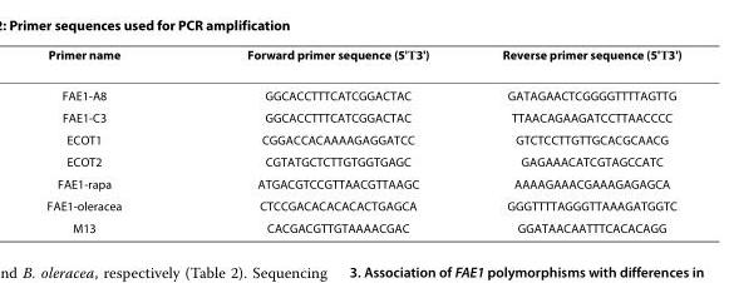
<table><thead><tr><td>Primer name</td><td>Forward primer sequence (5&#x27;→3&#x27;)</td><td>Reverse primer sequence (5&#x27;→3&#x27;)</td></tr></thead><tbody><tr><td>FAE1-A8</td><td>GGCACCTTTCATCGGACTAC</td><td>GATAGAACTCGGGGTTTTAGTTG</td></tr><tr><td>FAE1-C3</td><td>GGCACCTTTCATCGGACTAC</td><td>TTAACAGAAGATCCTTAACCCC</td></tr><tr><td>ECOT1</td><td>CGGACCACAAAAGAGGATCC</td><td>GTCTCCTTGTTGCACGCAACG</td></tr><tr><td>ECOT2</td><td>CGTATGCTCTTGTGGTGAGC</td><td>GAGAAACATCGTAGCCATC</td></tr><tr><td>FAE1-rapa</td><td>ATGACGTCCGTTAACGTTAAGC</td><td>AAAAGAAACGAAAGAGAGCA</td></tr><tr><td>FAE1-oleracea</td><td>CTCCGACACACACACTGAGCA</td><td>GGGTTTTAGGGTTAAAGATGGTC</td></tr><tr><td>M13</td><td>CACGACGTTGTAAAACGAC</td><td>GGATAACAATTTCACACAGG</td></tr></tbody></table>